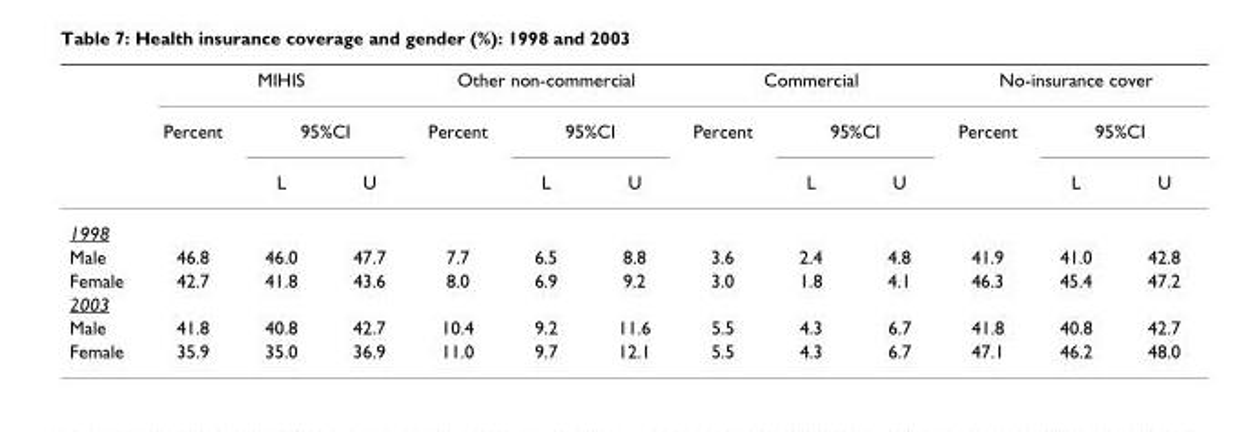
<table><thead><tr><td rowspan="3"></td><td colspan="3">MIHIS</td><td colspan="3">Other non-commercial</td><td colspan="3">Commercial</td><td colspan="3">No-insurance cover</td></tr><tr><td rowspan="2">Percent</td><td colspan="2">95%CI</td><td rowspan="2">Percent</td><td colspan="2">95%CI</td><td rowspan="2">Percent</td><td colspan="2">95%CI</td><td rowspan="2">Percent</td><td colspan="2">95%CI</td></tr><tr><td>L</td><td>U</td><td>L</td><td>U</td><td>L</td><td>U</td><td>L</td><td>U</td></tr></thead><tbody><tr><td colspan="13">1998</td></tr><tr><td>Male</td><td>46.8</td><td>46.0</td><td>47.7</td><td>7.7</td><td>6.5</td><td>8.8</td><td>3.6</td><td>2.4</td><td>4.8</td><td>41.9</td><td>41.0</td><td>42.8</td></tr><tr><td>Female</td><td>42.7</td><td>41.8</td><td>43.6</td><td>8.0</td><td>6.9</td><td>9.2</td><td>3.0</td><td>1.8</td><td>4.1</td><td>46.3</td><td>45.4</td><td>47.2</td></tr><tr><td colspan="13">2003</td></tr><tr><td>Male</td><td>41.8</td><td>40.8</td><td>42.7</td><td>10.4</td><td>9.2</td><td>11.6</td><td>5.5</td><td>4.3</td><td>6.7</td><td>41.8</td><td>40.8</td><td>42.7</td></tr><tr><td>Female</td><td>35.9</td><td>35.0</td><td>36.9</td><td>11.0</td><td>9.7</td><td>12.1</td><td>5.5</td><td>4.3</td><td>6.7</td><td>47.1</td><td>46.2</td><td>48.0</td></tr></tbody></table>